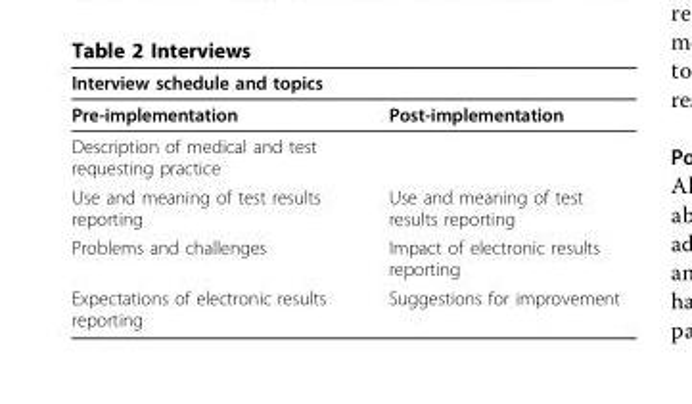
<table><thead><tr><td colspan="2">Interview schedule and topics</td></tr><tr><td>Pre-implementation</td><td>Post-implementation</td></tr></thead><tbody><tr><td colspan="2">Description of medical and test requesting practice</td></tr><tr><td>Use and meaning of test results reporting</td><td>Use and meaning of test results reporting</td></tr><tr><td>Problems and challenges</td><td>Impact of electronic results reporting</td></tr><tr><td>Expectations of electronic results reporting</td><td>Suggestions for improvement</td></tr></tbody></table>